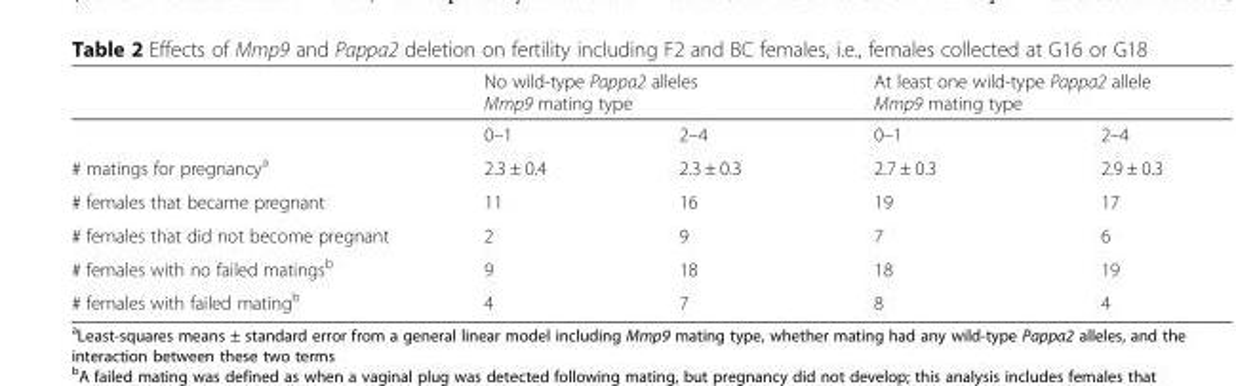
<table><thead><tr><td rowspan="2"></td><td colspan="2">No wild-type Pappa2 alleles Mmp9 mating type</td><td colspan="2">At least one wild-type Pappa2 allele Mmp9 mating type</td></tr><tr><td>0–1</td><td>2–4</td><td>0–1</td><td>2–4</td></tr></thead><tbody><tr><td># matings for pregnancy<sup>a</sup></td><td>2.3 ± 0.4</td><td>2.3 ± 0.3</td><td>2.7 ± 0.3</td><td>2.9 ± 0.3</td></tr><tr><td># females that became pregnant</td><td>11</td><td>16</td><td>19</td><td>17</td></tr><tr><td># females that did not become pregnant</td><td>2</td><td>9</td><td>7</td><td>6</td></tr><tr><td># females with no failed matings<sup>b</sup></td><td>9</td><td>18</td><td>18</td><td>19</td></tr><tr><td># females with failed mating<sup>b</sup></td><td>4</td><td>7</td><td>8</td><td>4</td></tr></tbody></table>